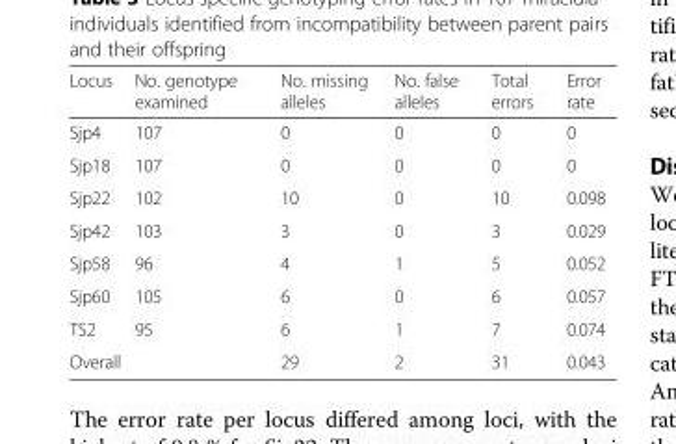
<table><thead><tr><td>Locus</td><td>No. genotype examined</td><td>No. missing alleles</td><td>No. false alleles</td><td>Total errors</td><td>Error rate</td></tr></thead><tbody><tr><td>Sjp4</td><td>107</td><td>0</td><td>0</td><td>0</td><td>0</td></tr><tr><td>Sjp18</td><td>107</td><td>0</td><td>0</td><td>0</td><td>0</td></tr><tr><td>Sjp22</td><td>102</td><td>10</td><td>0</td><td>10</td><td>0.098</td></tr><tr><td>Sjp42</td><td>103</td><td>3</td><td>0</td><td>3</td><td>0.029</td></tr><tr><td>Sjp58</td><td>96</td><td>4</td><td>1</td><td>5</td><td>0.052</td></tr><tr><td>Sjp60</td><td>105</td><td>6</td><td>0</td><td>6</td><td>0.057</td></tr><tr><td>TS2</td><td>95</td><td>6</td><td>1</td><td>7</td><td>0.074</td></tr><tr><td>Overall</td><td></td><td>29</td><td>2</td><td>31</td><td>0.043</td></tr></tbody></table>